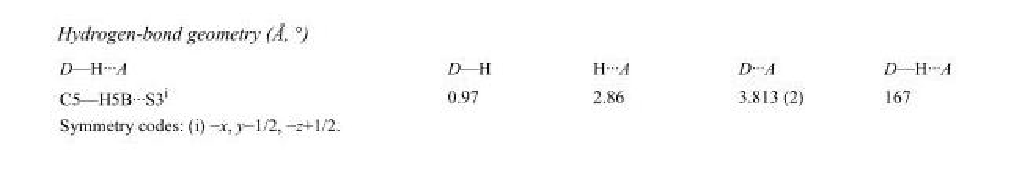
<table><tbody><tr><td>D—H···A</td><td>D—H</td><td>H···A</td><td>D···A</td><td>D—H···A</td></tr><tr><td>C5—H5B···S3<sup>i</sup></td><td>0.97</td><td>2.86</td><td>3.813 (2)</td><td>167</td></tr></tbody></table>